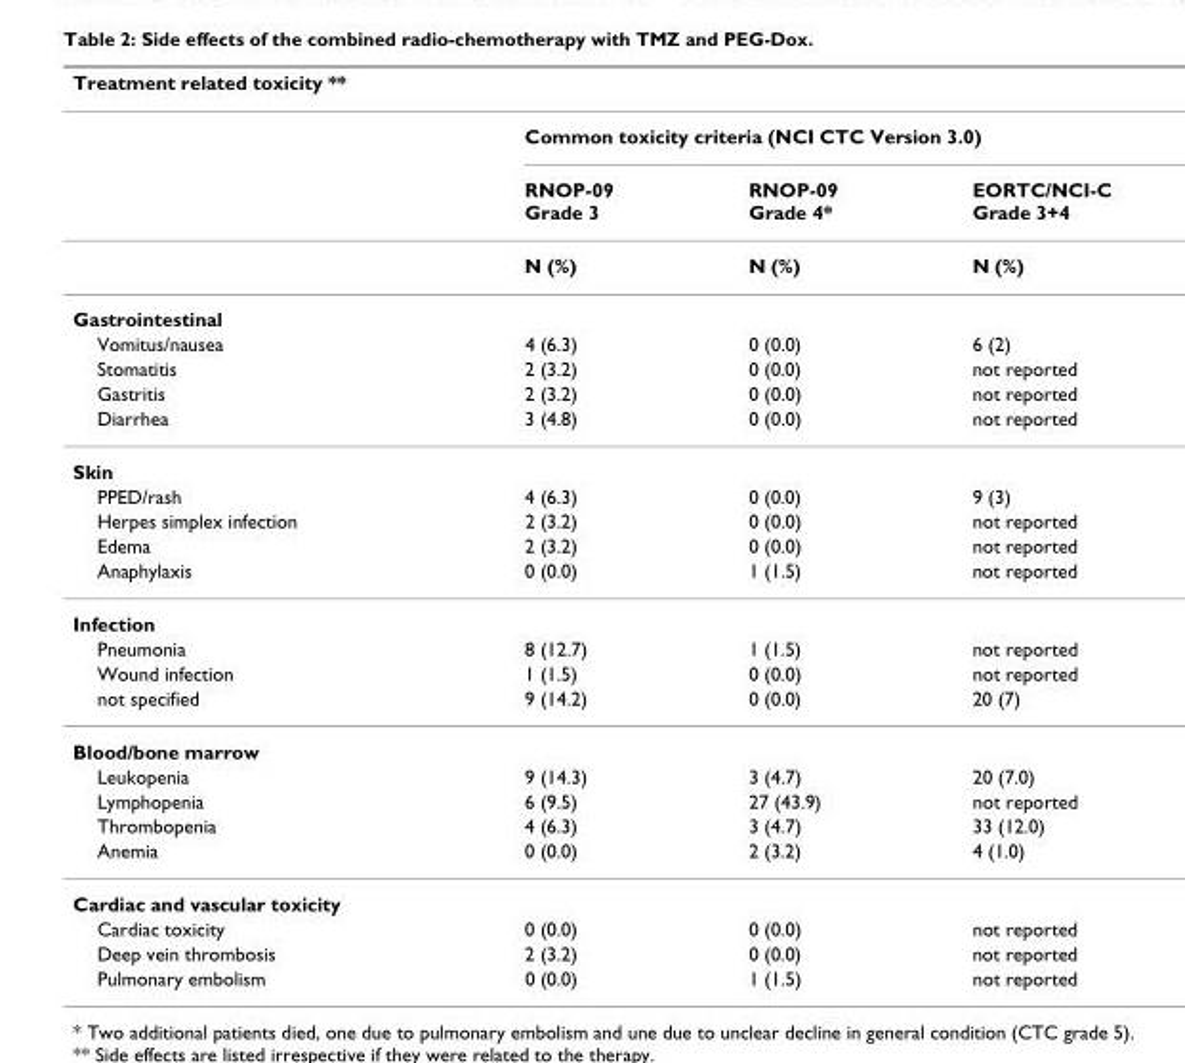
<table><thead><tr><td colspan="4">Treatment related toxicity **</td></tr><tr><td rowspan="2"></td><td colspan="3">Common toxicity criteria (NCI CTC Version 3.0)</td></tr><tr><td>RNOP-09 Grade 3</td><td>RNOP-09 Grade 4*</td><td>EORTC/NCI-C Grade 3+4</td></tr></thead><tbody><tr><td></td><td>N (%)</td><td>N (%)</td><td>N (%)</td></tr><tr><td colspan="4">Gastrointestinal</td></tr><tr><td>Vomitus/nausea</td><td>4 (6.3)</td><td>0 (0.0)</td><td>6 (2)</td></tr><tr><td>Stomatitis</td><td>2 (3.2)</td><td>0 (0.0)</td><td>not reported</td></tr><tr><td>Gastritis</td><td>2 (3.2)</td><td>0 (0.0)</td><td>not reported</td></tr><tr><td>Diarrhea</td><td>3 (4.8)</td><td>0 (0.0)</td><td>not reported</td></tr><tr><td colspan="4">Skin</td></tr><tr><td>PPED/rash</td><td>4 (6.3)</td><td>0 (0.0)</td><td>9 (3)</td></tr><tr><td>Herpes simplex infection</td><td>2 (3.2)</td><td>0 (0.0)</td><td>not reported</td></tr><tr><td>Edema</td><td>2 (3.2)</td><td>0 (0.0)</td><td>not reported</td></tr><tr><td>Anaphylaxis</td><td>0 (0.0)</td><td>1 (1.5)</td><td>not reported</td></tr><tr><td colspan="4">Infection</td></tr><tr><td>Pneumonia</td><td>8 (12.7)</td><td>1 (1.5)</td><td>not reported</td></tr><tr><td>Wound infection</td><td>1 (1.5)</td><td>0 (0.0)</td><td>not reported</td></tr><tr><td>not specified</td><td>9 (14.2)</td><td>0 (0.0)</td><td>20 (7)</td></tr><tr><td colspan="4">Blood/bone marrow</td></tr><tr><td>Leukopenia</td><td>9 (14.3)</td><td>3 (4.7)</td><td>20 (7.0)</td></tr><tr><td>Lymphopenia</td><td>6 (9.5)</td><td>27 (43.9)</td><td>not reported</td></tr><tr><td>Thrombopenia</td><td>4 (6.3)</td><td>3 (4.7)</td><td>33 (12.0)</td></tr><tr><td>Anemia</td><td>0 (0.0)</td><td>2 (3.2)</td><td>4 (1.0)</td></tr><tr><td colspan="4">Cardiac and vascular toxicity</td></tr><tr><td>Cardiac toxicity</td><td>0 (0.0)</td><td>0 (0.0)</td><td>not reported</td></tr><tr><td>Deep vein thrombosis</td><td>2 (3.2)</td><td>0 (0.0)</td><td>not reported</td></tr><tr><td>Pulmonary embolism</td><td>0 (0.0)</td><td>1 (1.5)</td><td>not reported</td></tr></tbody></table>